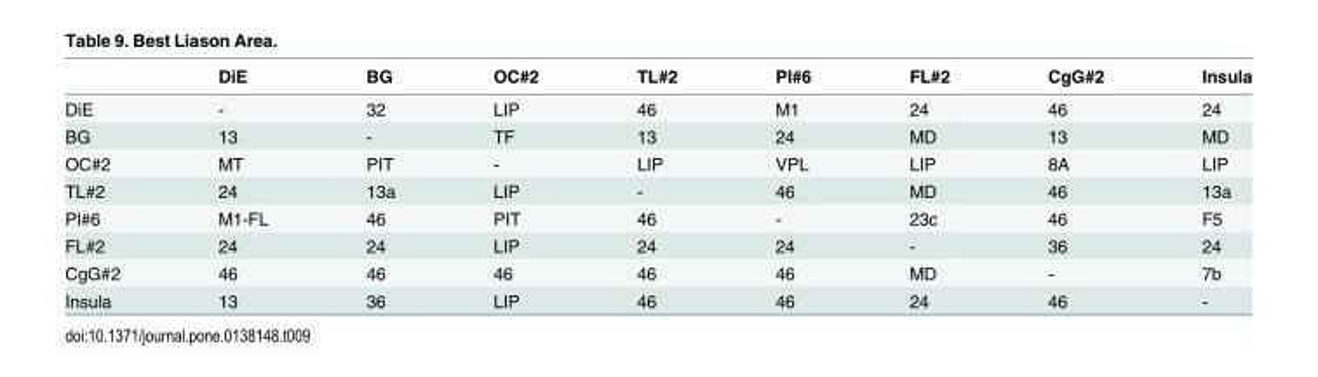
<table><thead><tr><td></td><td>DiE</td><td>BG</td><td>OC#2</td><td>TL#2</td><td>Pl#6</td><td>FL#2</td><td>CgG#2</td><td>Insula</td></tr></thead><tbody><tr><td>DiE</td><td>-</td><td>32</td><td>LIP</td><td>46</td><td>M1</td><td>24</td><td>46</td><td>24</td></tr><tr><td>BG</td><td>13</td><td>-</td><td>TF</td><td>13</td><td>24</td><td>MD</td><td>13</td><td>MD</td></tr><tr><td>OC#2</td><td>MT</td><td>PIT</td><td>-</td><td>LIP</td><td>VPL</td><td>LIP</td><td>8A</td><td>LIP</td></tr><tr><td>TL#2</td><td>24</td><td>13a</td><td>LIP</td><td>-</td><td>46</td><td>MD</td><td>46</td><td>13a</td></tr><tr><td>Pl#6</td><td>M1-FL</td><td>46</td><td>PIT</td><td>46</td><td>-</td><td>23c</td><td>46</td><td>F5</td></tr><tr><td>FL#2</td><td>24</td><td>24</td><td>LIP</td><td>24</td><td>24</td><td>-</td><td>36</td><td>24</td></tr><tr><td>CgG#2</td><td>46</td><td>46</td><td>46</td><td>46</td><td>46</td><td>MD</td><td>-</td><td>7b</td></tr><tr><td>Insula</td><td>13</td><td>36</td><td>LIP</td><td>46</td><td>46</td><td>24</td><td>46</td><td>-</td></tr></tbody></table>